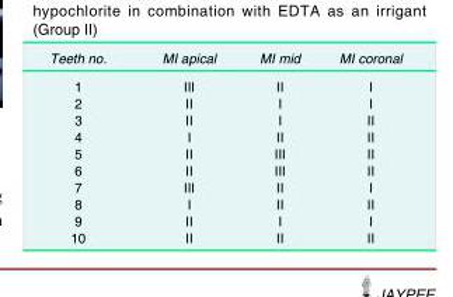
<table><tbody><tr><td>Teeth no.</td><td>MI apical</td><td>MI mid</td><td>MI coronal</td></tr><tr><td>1</td><td>III</td><td>II</td><td>I</td></tr><tr><td>2</td><td>II</td><td>I</td><td>I</td></tr><tr><td>3</td><td>II</td><td>I</td><td>II</td></tr><tr><td>4</td><td>I</td><td>II</td><td>II</td></tr><tr><td>5</td><td>II</td><td>III</td><td>II</td></tr><tr><td>6</td><td>II</td><td>III</td><td>II</td></tr><tr><td>7</td><td>III</td><td>II</td><td>I</td></tr><tr><td>8</td><td>I</td><td>II</td><td>II</td></tr><tr><td>9</td><td>II</td><td>I</td><td>I</td></tr><tr><td>10</td><td>II</td><td>II</td><td>II</td></tr></tbody></table>